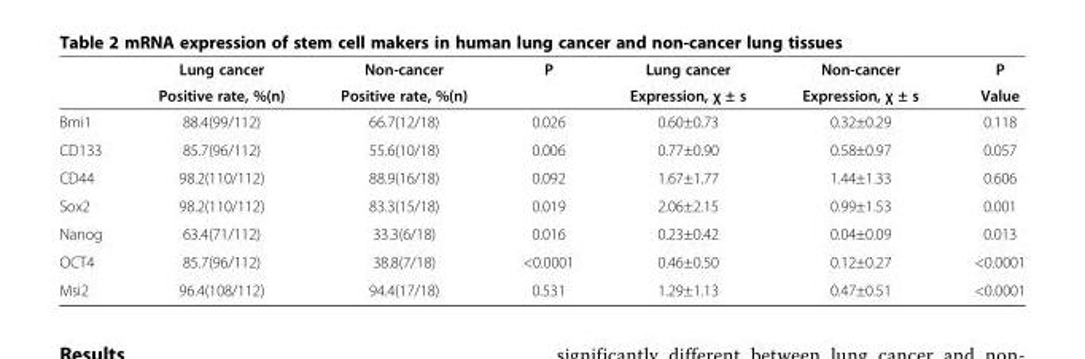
<table><thead><tr><td rowspan="2"></td><td rowspan="2">Lung cancer Positive rate, %(n)</td><td rowspan="2">Non-cancer Positive rate, %(n)</td><td rowspan="2">P</td><td rowspan="2">Lung cancer Expression, χ ± s</td><td rowspan="2">Non-cancer Expression, χ ± s</td><td rowspan="2">P Value</td></tr><tr></tr></thead><tbody><tr><td>Bmi1</td><td>88.4(99/112)</td><td>66.7(12/18)</td><td>0.026</td><td>0.60±0.73</td><td>0.32±0.29</td><td>0.118</td></tr><tr><td>CD133</td><td>85.7(96/112)</td><td>55.6(10/18)</td><td>0.006</td><td>0.77±0.90</td><td>0.58±0.97</td><td>0.057</td></tr><tr><td>CD44</td><td>98.2(110/112)</td><td>88.9(16/18)</td><td>0.092</td><td>1.67±1.77</td><td>1.44±1.33</td><td>0.606</td></tr><tr><td>Sox2</td><td>98.2(110/112)</td><td>83.3(15/18)</td><td>0.019</td><td>2.06±2.15</td><td>0.99±1.53</td><td>0.001</td></tr><tr><td>Nanog</td><td>63.4(71/112)</td><td>33.3(6/18)</td><td>0.016</td><td>0.23±0.42</td><td>0.04±0.09</td><td>0.013</td></tr><tr><td>OCT4</td><td>85.7(96/112)</td><td>38.8(7/18)</td><td>&lt;0.0001</td><td>0.46±0.50</td><td>0.12±0.27</td><td>&lt;0.0001</td></tr><tr><td>Msi2</td><td>96.4(108/112)</td><td>94.4(17/18)</td><td>0.531</td><td>1.29±1.13</td><td>0.47±0.51</td><td>&lt;0.0001</td></tr></tbody></table>